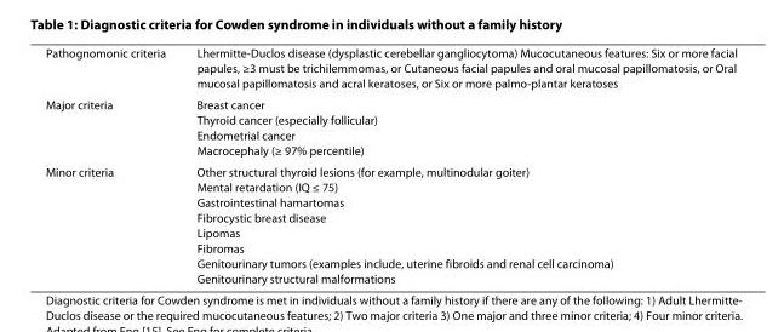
<table><tbody><tr><td>Pathognomonic criteria</td><td>Lhermitte-Duclos disease (dysplastic cerebellar gangliocytoma) Mucocutaneous features: Six or more facial papules, ≥3 must be trichilemmomas, or Cutaneous facial papules and oral mucosal papillomatosis, or Oral mucosal papillomatosis and acral keratoses, or Six or more palmo-plantar keratoses</td></tr><tr><td>Major criteria</td><td>Breast cancer Thyroid cancer (especially follicular) Endometrial cancer Macrocephaly (≥ 97% percentile)</td></tr><tr><td>Minor criteria</td><td>Other structural thyroid lesions (for example, multinodular goiter) Mental retardation (IQ ≤ 75) Gastrointestinal hamartomas Fibrocystic breast disease Lipomas Fibromas Genitourinary tumors (examples include, uterine fibroids and renal cell carcinoma) Genitourinary structural malformations</td></tr></tbody></table>